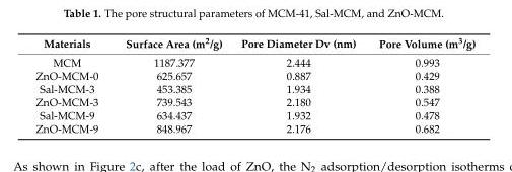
<table><thead><tr><td>Materials</td><td>Surface Area (m2/g)</td><td>Pore Diameter Dv (nm)</td><td>Pore Volume (m3/g)</td></tr></thead><tbody><tr><td>MCM</td><td>1187.377</td><td>2.444</td><td>0.993</td></tr><tr><td>ZnO-MCM-0</td><td>625.657</td><td>0.887</td><td>0.429</td></tr><tr><td>Sal-MCM-3</td><td>453.385</td><td>1.934</td><td>0.388</td></tr><tr><td>ZnO-MCM-3</td><td>739.543</td><td>2.180</td><td>0.547</td></tr><tr><td>Sal-MCM-9</td><td>634.437</td><td>1.932</td><td>0.478</td></tr><tr><td>ZnO-MCM-9</td><td>848.967</td><td>2.176</td><td>0.682</td></tr></tbody></table>